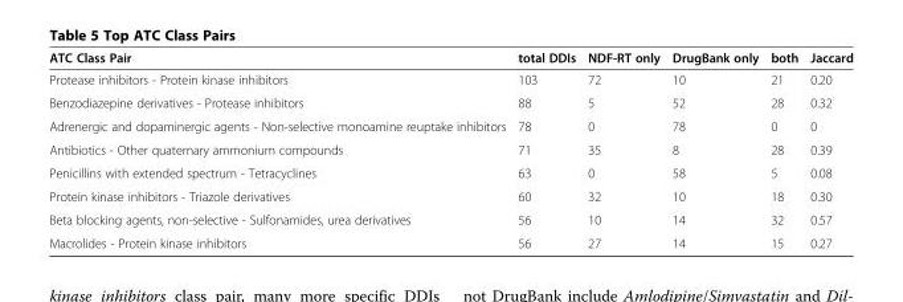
<table><thead><tr><td>ATC Class Pair</td><td>total DDIs</td><td>NDF-RT only</td><td>DrugBank only</td><td>both</td><td>Jaccard</td></tr></thead><tbody><tr><td>Protease inhibitors - Protein kinase inhibitors</td><td>103</td><td>72</td><td>10</td><td>21</td><td>0.20</td></tr><tr><td>Benzodiazepine derivatives - Protease inhibitors</td><td>88</td><td>5</td><td>52</td><td>28</td><td>0.32</td></tr><tr><td>Adrenergic and dopaminergic agents - Non-selective monoamine reuptake inhibitors</td><td>78</td><td>0</td><td>78</td><td>0</td><td>0</td></tr><tr><td>Antibiotics - Other quaternary ammonium compounds</td><td>71</td><td>35</td><td>8</td><td>28</td><td>0.39</td></tr><tr><td>Penicillins with extended spectrum - Tetracyclines</td><td>63</td><td>0</td><td>58</td><td>5</td><td>0.08</td></tr><tr><td>Protein kinase inhibitors - Triazole derivatives</td><td>60</td><td>32</td><td>10</td><td>18</td><td>0.30</td></tr><tr><td>Beta blocking agents, non-selective - Sulfonamides, urea derivatives</td><td>56</td><td>10</td><td>14</td><td>32</td><td>0.57</td></tr><tr><td>Macrolides - Protein kinase inhibitors</td><td>56</td><td>27</td><td>14</td><td>15</td><td>0.27</td></tr></tbody></table>